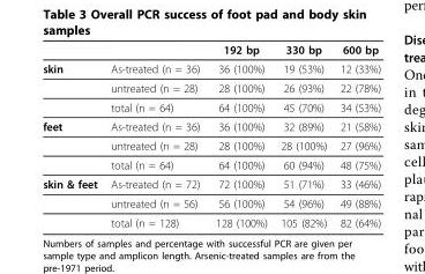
<table><thead><tr><td></td><td></td><td>192 bp</td><td>330 bp</td><td>600 bp</td></tr></thead><tbody><tr><td rowspan="3">skin</td><td>As-treated (n = 36)</td><td>36 (100%)</td><td>19 (53%)</td><td>12 (33%)</td></tr><tr><td>untreated (n = 28)</td><td>28 (100%)</td><td>26 (93%)</td><td>22 (78%)</td></tr><tr><td>total (n = 64)</td><td>64 (100%)</td><td>45 (70%)</td><td>34 (53%)</td></tr><tr><td rowspan="3">feet</td><td>As-treated (n = 36)</td><td>36 (100%)</td><td>32 (89%)</td><td>21 (58%)</td></tr><tr><td>untreated (n = 28)</td><td>28 (100%)</td><td>28 (100%)</td><td>27 (96%)</td></tr><tr><td>total (n = 64)</td><td>64 (100%)</td><td>60 (94%)</td><td>48 (75%)</td></tr><tr><td rowspan="3">skin &amp; feet</td><td>As-treated (n = 72)</td><td>72 (100%)</td><td>51 (71%)</td><td>33 (46%)</td></tr><tr><td>untreated (n = 56)</td><td>56 (100%)</td><td>54 (96%)</td><td>49 (88%)</td></tr><tr><td>total (n = 128)</td><td>128 (100%)</td><td>105 (82%)</td><td>82 (64%)</td></tr></tbody></table>